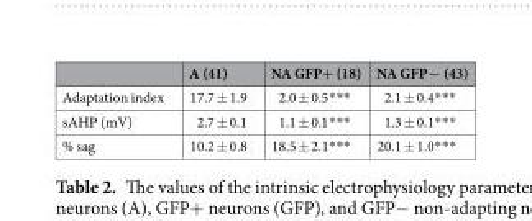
<table><thead><tr><td></td><td>A (41)</td><td>NA GFP+ (18)</td><td>NA GFP− (43)</td></tr></thead><tbody><tr><td>Adaptation index</td><td>17.7 ± 1.9</td><td>2.0 ± 0.5***</td><td>2.1 ± 0.4***</td></tr><tr><td>sAHP (mV)</td><td>2.7 ± 0.1</td><td>1.1 ± 0.1***</td><td>1.3 ± 0.1***</td></tr><tr><td>% sag</td><td>10.2 ± 0.8</td><td>18.5 ± 2.1***</td><td>20.1 ± 1.0***</td></tr></tbody></table>